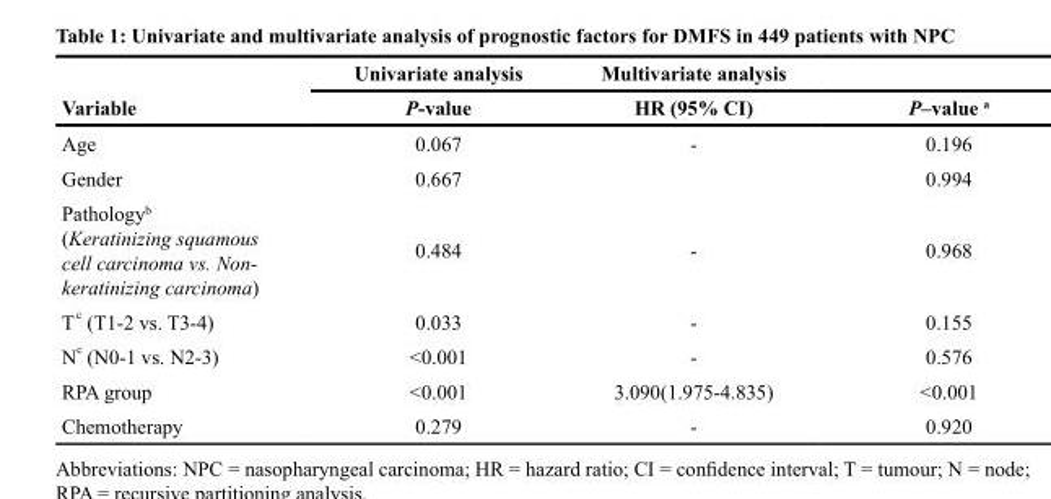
<table><thead><tr><td rowspan="2">Variable</td><td rowspan="2">Univariate analysis P-value</td><td rowspan="2">Multivariate analysis HR (95% CI)</td><td rowspan="2">P–value <sup>a</sup></td></tr><tr></tr></thead><tbody><tr><td>Age</td><td>0.067</td><td>-</td><td>0.196</td></tr><tr><td>Gender</td><td>0.667</td><td></td><td>0.994</td></tr><tr><td>Pathology<sup>b</sup> (Keratinizing squamous cell carcinoma vs. Non- keratinizing carcinoma)</td><td>0.484</td><td>-</td><td>0.968</td></tr><tr><td>T <sup>c</sup> (T1-2 vs. T3-4)</td><td>0.033</td><td>-</td><td>0.155</td></tr><tr><td>N <sup>c</sup> (N0-1 vs. N2-3)</td><td>&lt;0.001</td><td>-</td><td>0.576</td></tr><tr><td>RPA group</td><td>&lt;0.001</td><td>3.090(1.975-4.835)</td><td>&lt;0.001</td></tr><tr><td>Chemotherapy</td><td>0.279</td><td>-</td><td>0.920</td></tr></tbody></table>